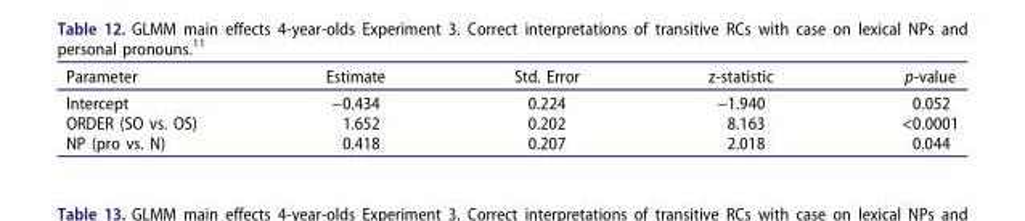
<table><thead><tr><td>Parameter</td><td>Estimate</td><td>Std. Error</td><td>z-statistic</td><td>p-value</td></tr></thead><tbody><tr><td>Intercept</td><td>−0.434</td><td>0.224</td><td>−1.940</td><td>0.052</td></tr><tr><td>ORDER (SO vs. OS)</td><td>1.652</td><td>0.202</td><td>8.163</td><td>&lt;0.0001</td></tr><tr><td>NP (pro vs. N)</td><td>0.418</td><td>0.207</td><td>2.018</td><td>0.044</td></tr></tbody></table>